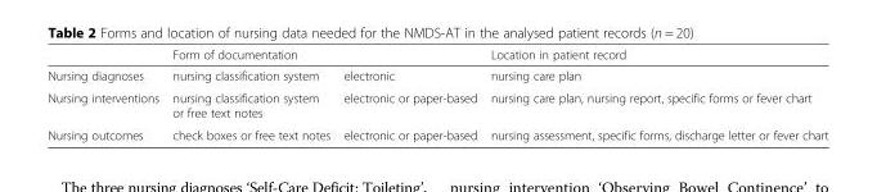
<table><thead><tr><td rowspan="2">Nursing diagnoses</td><td colspan="2">Form of documentation</td><td rowspan="2">Location in patient record nursing care plan</td></tr><tr><td>nursing classification system</td><td>electronic</td></tr></thead><tbody><tr><td>Nursing interventions</td><td>nursing classification system or free text notes</td><td>electronic or paper-based</td><td>nursing care plan, nursing report, specific forms or fever chart</td></tr><tr><td>Nursing outcomes</td><td>check boxes or free text notes</td><td>electronic or paper-based</td><td>nursing assessment, specific forms, discharge letter or fever chart</td></tr></tbody></table>